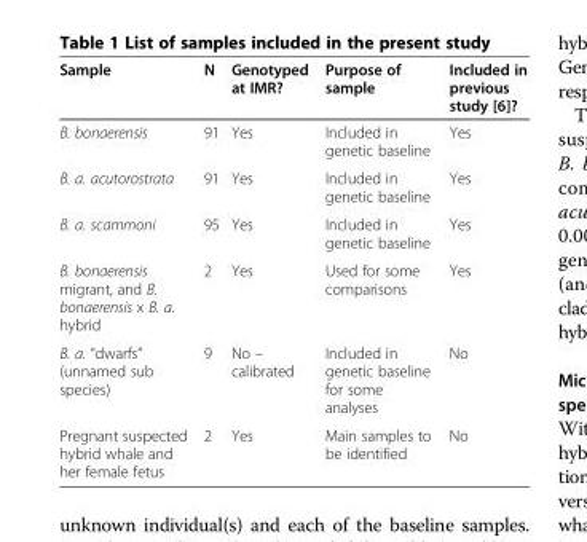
<table><thead><tr><td>Sample</td><td>N</td><td>Genotyped at IMR?</td><td>Purpose of sample</td><td>Included in previous study [6]?</td></tr></thead><tbody><tr><td>B. bonaerensis</td><td>91</td><td>Yes</td><td>Included in genetic baseline</td><td>Yes</td></tr><tr><td>B. a. acutorostrata</td><td>91</td><td>Yes</td><td>Included in genetic baseline</td><td>Yes</td></tr><tr><td>B. a. scammoni</td><td>95</td><td>Yes</td><td>Included in genetic baseline</td><td>Yes</td></tr><tr><td>B. bonaerensis migrant, and B. bonaerensis x B. a. hybrid</td><td>2</td><td>Yes</td><td>Used for some comparisons</td><td>Yes</td></tr><tr><td>B. a. “dwarfs” (unnamed sub species)</td><td>9</td><td>No – calibrated</td><td>Included in genetic baseline for some analyses</td><td>No</td></tr><tr><td>Pregnant suspected hybrid whale and her female fetus</td><td>2</td><td>Yes</td><td>Main samples to be identified</td><td>No</td></tr></tbody></table>